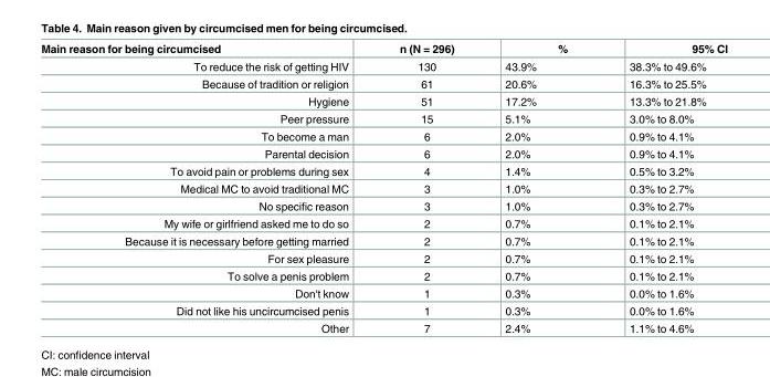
<table><thead><tr><td>Main reason for being circumcised</td><td>n (N = 296)</td><td>%</td><td>95% CI</td></tr></thead><tbody><tr><td>To reduce the risk of getting HIV</td><td>130</td><td>43.9%</td><td>38.3% to 49.6%</td></tr><tr><td>Because of tradition or religion</td><td>61</td><td>20.6%</td><td>16.3% to 25.5%</td></tr><tr><td>Hygiene</td><td>51</td><td>17.2%</td><td>13.3% to 21.8%</td></tr><tr><td>Peer pressure</td><td>15</td><td>5.1%</td><td>3.0% to 8.0%</td></tr><tr><td>To become a man</td><td>6</td><td>2.0%</td><td>0.9% to 4.1%</td></tr><tr><td>Parental decision</td><td>6</td><td>2.0%</td><td>0.9% to 4.1%</td></tr><tr><td>To avoid pain or problems during sex</td><td>4</td><td>1.4%</td><td>0.5% to 3.2%</td></tr><tr><td>Medical MC to avoid traditional MC</td><td>3</td><td>1.0%</td><td>0.3% to 2.7%</td></tr><tr><td>No specific reason</td><td>3</td><td>1.0%</td><td>0.3% to 2.7%</td></tr><tr><td>My wife or girlfriend asked me to do so</td><td>2</td><td>0.7%</td><td>0.1% to 2.1%</td></tr><tr><td>Because it is necessary before getting married</td><td>2</td><td>0.7%</td><td>0.1% to 2.1%</td></tr><tr><td>For sex pleasure</td><td>2</td><td>0.7%</td><td>0.1% to 2.1%</td></tr><tr><td>To solve a penis problem</td><td>2</td><td>0.7%</td><td>0.1% to 2.1%</td></tr><tr><td>Don&#x27;t know</td><td>1</td><td>0.3%</td><td>0.0% to 1.6%</td></tr><tr><td>Did not like his uncircumcised penis</td><td>1</td><td>0.3%</td><td>0.0% to 1.6%</td></tr><tr><td>Other</td><td>7</td><td>2.4%</td><td>1.1% to 4.6%</td></tr></tbody></table>